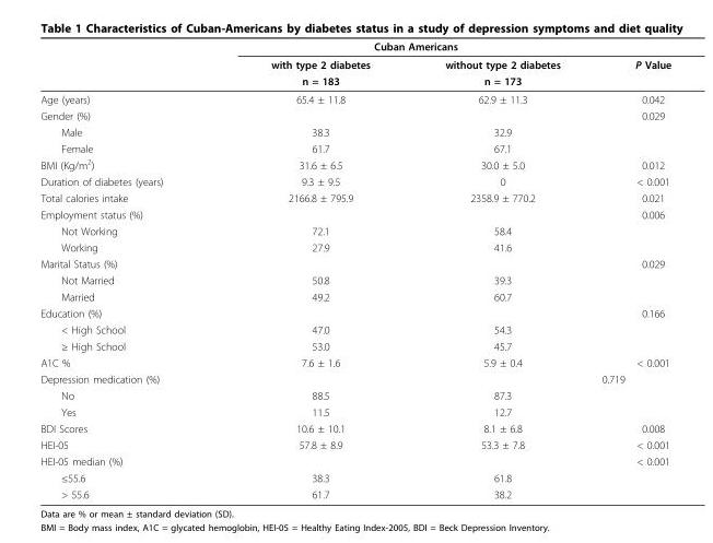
<table><thead><tr><td rowspan="3"></td><td colspan="2">Cuban Americans</td><td rowspan="3">P Value</td></tr><tr><td rowspan="2">with type 2 diabetes n = 183</td><td rowspan="2">without type 2 diabetes n = 173</td></tr><tr></tr></thead><tbody><tr><td>Age (years)</td><td>65.4 ± 11.8</td><td>62.9 ± 11.3</td><td>0.042</td></tr><tr><td>Gender (%)</td><td></td><td></td><td>0.029</td></tr><tr><td>Male</td><td>38.3</td><td>32.9</td><td></td></tr><tr><td>Female</td><td>61.7</td><td>67.1</td><td></td></tr><tr><td>BMI (Kg/m<sup>2</sup>)</td><td>31.6 ± 6.5</td><td>30.0 ± 5.0</td><td>0.012</td></tr><tr><td>Duration of diabetes (years)</td><td>9.3 ± 9.5</td><td>0</td><td>&lt; 0.001</td></tr><tr><td>Total calories intake</td><td>2166.8 ± 795.9</td><td>2358.9 ± 770.2</td><td>0.021</td></tr><tr><td>Employment status (%)</td><td></td><td></td><td>0.006</td></tr><tr><td>Not Working</td><td>72.1</td><td>58.4</td><td></td></tr><tr><td>Working</td><td>27.9</td><td>41.6</td><td></td></tr><tr><td>Marital Status (%)</td><td></td><td></td><td>0.029</td></tr><tr><td>Not Married</td><td>50.8</td><td>39.3</td><td></td></tr><tr><td>Married</td><td>49.2</td><td>60.7</td><td></td></tr><tr><td>Education (%)</td><td></td><td></td><td>0.166</td></tr><tr><td>&lt; High School</td><td>47.0</td><td>54.3</td><td></td></tr><tr><td>≥ High School</td><td>53.0</td><td>45.7</td><td></td></tr><tr><td>A1C %</td><td>7.6 ± 1.6</td><td>5.9 ± 0.4</td><td>&lt; 0.001</td></tr><tr><td>Depression medication (%)</td><td></td><td></td><td>0.719</td></tr><tr><td>No</td><td>88.5</td><td>87.3</td><td></td></tr><tr><td>Yes</td><td>11.5</td><td>12.7</td><td></td></tr><tr><td>BDI Scores</td><td>10.6 ± 10.1</td><td>8.1 ± 6.8</td><td>0.008</td></tr><tr><td>HEI-05</td><td>57.8 ± 8.9</td><td>53.3 ± 7.8</td><td>&lt; 0.001</td></tr><tr><td>HEI-05 median (%)</td><td></td><td></td><td>&lt; 0.001</td></tr><tr><td>≤55.6</td><td>38.3</td><td>61.8</td><td></td></tr><tr><td>&gt; 55.6</td><td>61.7</td><td>38.2</td><td></td></tr></tbody></table>